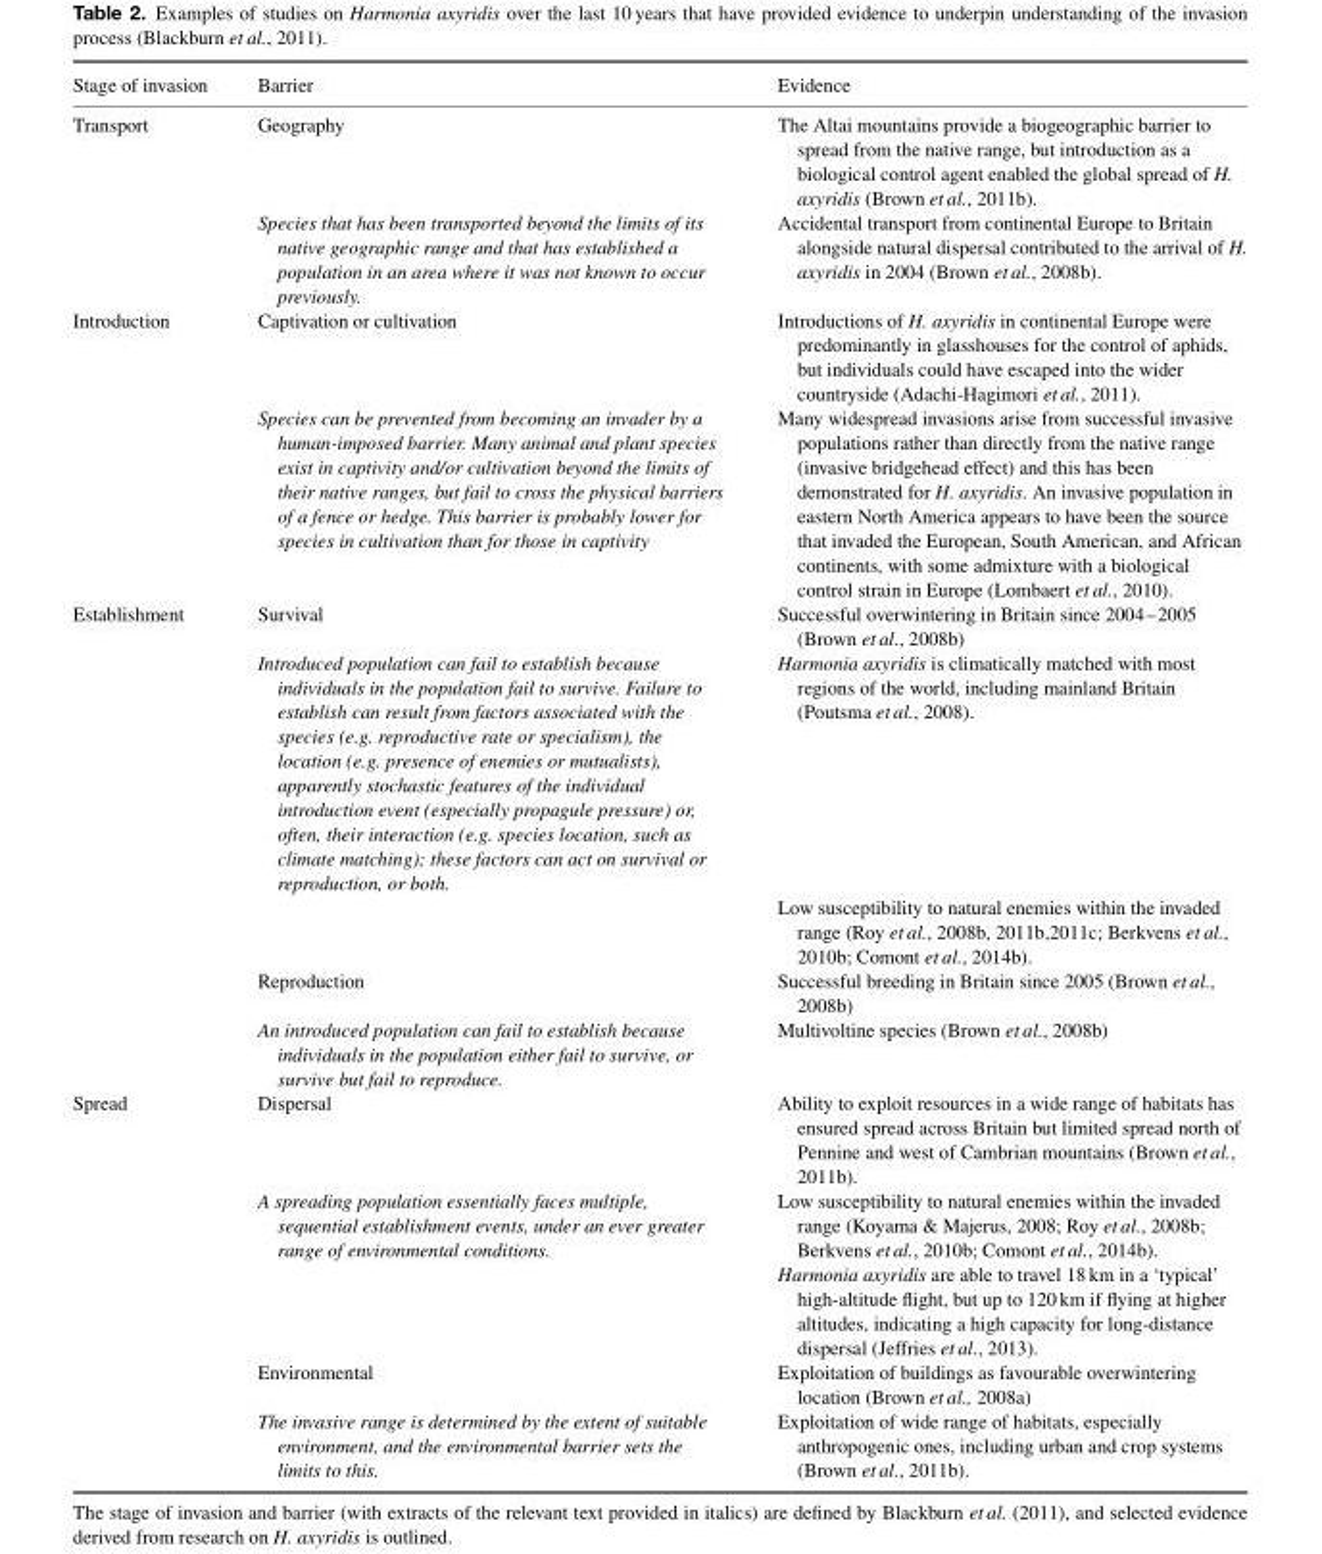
<table><thead><tr><td>Stage of invasion</td><td>Barrier</td><td>Evidence</td></tr></thead><tbody><tr><td rowspan="2">Transport</td><td>Geography</td><td>The Altai mountains provide a biogeographic barrier to spread from the native range, but introduction as a biological control agent enabled the global spread of H. axyridis (Brown et al., 2011b).</td></tr><tr><td>Species that has been transported beyond the limits of its native geographic range and that has established a population in an area where it was not known to occur previously.</td><td>Accidental transport from continental Europe to Britain alongside natural dispersal contributed to the arrival of H. axyridis in 2004 (Brown et al., 2008b).</td></tr><tr><td rowspan="2">Introduction</td><td>Captivation or cultivation</td><td>Introductions of H. axyridis in continental Europe were predominantly in glasshouses for the control of aphids, but individuals could have escaped into the wider countryside (Adachi-Hagimori et al., 2011).</td></tr><tr><td>Species can be prevented from becoming an invader by a human-imposed barrier. Many animal and plant species exist in captivity and/or cultivation beyond the limits of their native ranges, but fail to cross the physical barriers of a fence or hedge. This barrier is probably lower for species in cultivation than for those in captivity</td><td>Many widespread invasions arise from successful invasive populations rather than directly from the native range (invasive bridgehead effect) and this has been demonstrated for H. axyridis. An invasive population in eastern North America appears to have been the source that invaded the European, South American, and African continents, with some admixture with a biological control strain in Europe (Lombaert et al., 2010).</td></tr><tr><td rowspan="5">Establishment</td><td>Survival</td><td>Successful overwintering in Britain since 2004–2005 (Brown et al., 2008b)</td></tr><tr><td rowspan="2">Introduced population can fail to establish because individuals in the population fail to survive. Failure to establish can result from factors associated with the species (e.g. reproductive rate or specialism), the location (e.g. presence of enemies or mutualists), apparently stochastic features of the individual introduction event (especially propagule pressure) or, often, their interaction (e.g. species location, such as climate matching); these factors can act on survival or reproduction, or both.</td><td>Harmonia axyridis is climatically matched with most regions of the world, including mainland Britain (Poutsma et al., 2008).</td></tr><tr><td>Low susceptibility to natural enemies within the invaded range (Roy et al., 2008b, 2011b,2011c; Berkvens et al., 2010b; Comont et al., 2014b).</td></tr><tr><td>Reproduction</td><td>Successful breeding in Britain since 2005 (Brown et al., 2008b)</td></tr><tr><td>An introduced population can fail to establish because individuals in the population either fail to survive, or survive but fail to reproduce.</td><td>Multivoltine species (Brown et al., 2008b)</td></tr><tr><td rowspan="5">Spread</td><td>Dispersal</td><td>Ability to exploit resources in a wide range of habitats has ensured spread across Britain but limited spread north of Pennine and west of Cambrian mountains (Brown et al., 2011b).</td></tr><tr><td rowspan="2">A spreading population essentially faces multiple, sequential establishment events, under an ever greater range of environmental conditions.</td><td>Low susceptibility to natural enemies within the invaded range (Koyama &amp; Majerus, 2008; Roy et al., 2008b; Berkvens et al., 2010b; Comont et al., 2014b).</td></tr><tr><td>Harmonia axyridis are able to travel 18 km in a ‘typical’ high-altitude flight, but up to 120 km if flying at higher altitudes, indicating a high capacity for long-distance dispersal (Jeffries et al., 2013).</td></tr><tr><td>Environmental</td><td>Exploitation of buildings as favourable overwintering location (Brown et al., 2008a)</td></tr><tr><td>The invasive range is determined by the extent of suitable environment, and the environmental barrier sets the limits to this.</td><td>Exploitation of wide range of habitats, especially anthropogenic ones, including urban and crop systems (Brown et al., 2011b).</td></tr></tbody></table>